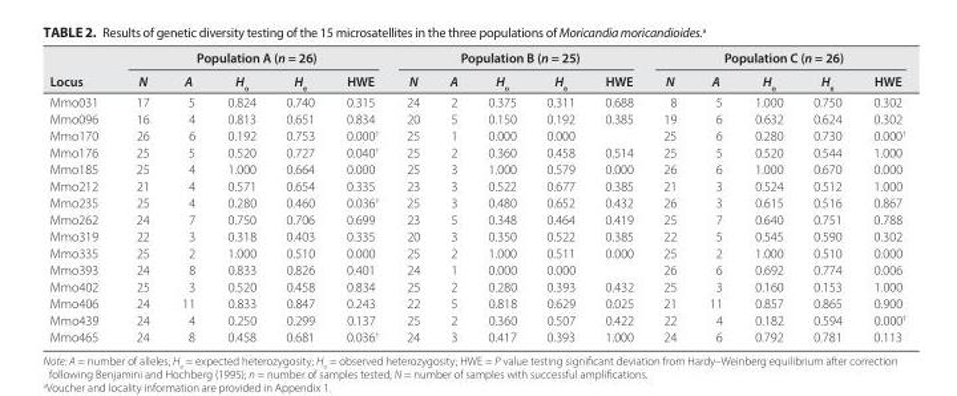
<table><thead><tr><td rowspan="2">Locus</td><td colspan="5">Population A (n = 26)</td><td colspan="5">Population B (n = 25)</td><td colspan="5">Population C (n = 26)</td></tr><tr><td>N</td><td>A</td><td>H<sub>o</sub></td><td>H<sub>e</sub></td><td>HWE</td><td>N</td><td>A</td><td>H<sub>o</sub></td><td>H<sub>e</sub></td><td>HWE</td><td>N</td><td>A</td><td>H<sub>o</sub></td><td>H<sub>e</sub></td><td>HWE</td></tr></thead><tbody><tr><td>Mmo031</td><td>17</td><td>5</td><td>0.824</td><td>0.740</td><td>0.315</td><td>24</td><td>2</td><td>0.375</td><td>0.311</td><td>0.688</td><td>8</td><td>5</td><td>1.000</td><td>0.750</td><td>0.302</td></tr><tr><td>Mmo096</td><td>16</td><td>4</td><td>0.813</td><td>0.651</td><td>0.834</td><td>20</td><td>5</td><td>0.150</td><td>0.192</td><td>0.385</td><td>19</td><td>6</td><td>0.632</td><td>0.624</td><td>0.302</td></tr><tr><td>Mmo170</td><td>26</td><td>6</td><td>0.192</td><td>0.753</td><td>0.000†</td><td>25</td><td>1</td><td>0.000</td><td>0.000</td><td></td><td>25</td><td>6</td><td>0.280</td><td>0.730</td><td>0.000†</td></tr><tr><td>Mmo176</td><td>25</td><td>5</td><td>0.520</td><td>0.727</td><td>0.040†</td><td>25</td><td>2</td><td>0.360</td><td>0.458</td><td>0.514</td><td>25</td><td>5</td><td>0.520</td><td>0.544</td><td>1.000</td></tr><tr><td>Mmo185</td><td>25</td><td>4</td><td>1.000</td><td>0.664</td><td>0.000</td><td>25</td><td>3</td><td>1.000</td><td>0.579</td><td>0.000</td><td>26</td><td>6</td><td>1.000</td><td>0.670</td><td>0.000</td></tr><tr><td>Mmo212</td><td>21</td><td>4</td><td>0.571</td><td>0.654</td><td>0.335</td><td>23</td><td>3</td><td>0.522</td><td>0.677</td><td>0.385</td><td>21</td><td>3</td><td>0.524</td><td>0.512</td><td>1.000</td></tr><tr><td>Mmo235</td><td>25</td><td>4</td><td>0.280</td><td>0.460</td><td>0.036†</td><td>25</td><td>3</td><td>0.480</td><td>0.652</td><td>0.432</td><td>26</td><td>3</td><td>0.615</td><td>0.516</td><td>0.867</td></tr><tr><td>Mmo262</td><td>24</td><td>7</td><td>0.750</td><td>0.706</td><td>0.699</td><td>23</td><td>5</td><td>0.348</td><td>0.464</td><td>0.419</td><td>25</td><td>7</td><td>0.640</td><td>0.751</td><td>0.788</td></tr><tr><td>Mmo319</td><td>22</td><td>3</td><td>0.318</td><td>0.403</td><td>0.335</td><td>20</td><td>3</td><td>0.350</td><td>0.522</td><td>0.385</td><td>22</td><td>5</td><td>0.545</td><td>0.590</td><td>0.302</td></tr><tr><td>Mmo335</td><td>25</td><td>2</td><td>1.000</td><td>0.510</td><td>0.000</td><td>25</td><td>2</td><td>1.000</td><td>0.511</td><td>0.000</td><td>25</td><td>2</td><td>1.000</td><td>0.510</td><td>0.000</td></tr><tr><td>Mmo393</td><td>24</td><td>8</td><td>0.833</td><td>0.826</td><td>0.401</td><td>24</td><td>1</td><td>0.000</td><td>0.000</td><td></td><td>26</td><td>6</td><td>0.692</td><td>0.774</td><td>0.006</td></tr><tr><td>Mmo402</td><td>25</td><td>3</td><td>0.520</td><td>0.458</td><td>0.834</td><td>25</td><td>2</td><td>0.280</td><td>0.393</td><td>0.432</td><td>25</td><td>3</td><td>0.160</td><td>0.153</td><td>1.000</td></tr><tr><td>Mmo406</td><td>24</td><td>11</td><td>0.833</td><td>0.847</td><td>0.243</td><td>22</td><td>5</td><td>0.818</td><td>0.629</td><td>0.025</td><td>21</td><td>11</td><td>0.857</td><td>0.865</td><td>0.900</td></tr><tr><td>Mmo439</td><td>24</td><td>4</td><td>0.250</td><td>0.299</td><td>0.137</td><td>25</td><td>2</td><td>0.360</td><td>0.507</td><td>0.422</td><td>22</td><td>4</td><td>0.182</td><td>0.594</td><td>0.000†</td></tr><tr><td>Mmo465</td><td>24</td><td>8</td><td>0.458</td><td>0.681</td><td>0.036†</td><td>24</td><td>3</td><td>0.417</td><td>0.393</td><td>1.000</td><td>24</td><td>6</td><td>0.792</td><td>0.781</td><td>0.113</td></tr></tbody></table>